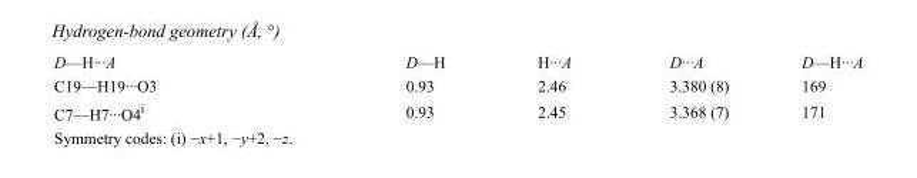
<table><tbody><tr><td>D—H···A</td><td>D—H</td><td>H···A</td><td>D···A</td><td>D—H···A</td></tr><tr><td>C19—H19···O3</td><td>0.93</td><td>2.46</td><td>3.380 (8)</td><td>169</td></tr><tr><td>C7—H7···O4<sup>i</sup></td><td>0.93</td><td>2.45</td><td>3.368 (7)</td><td>171</td></tr></tbody></table>